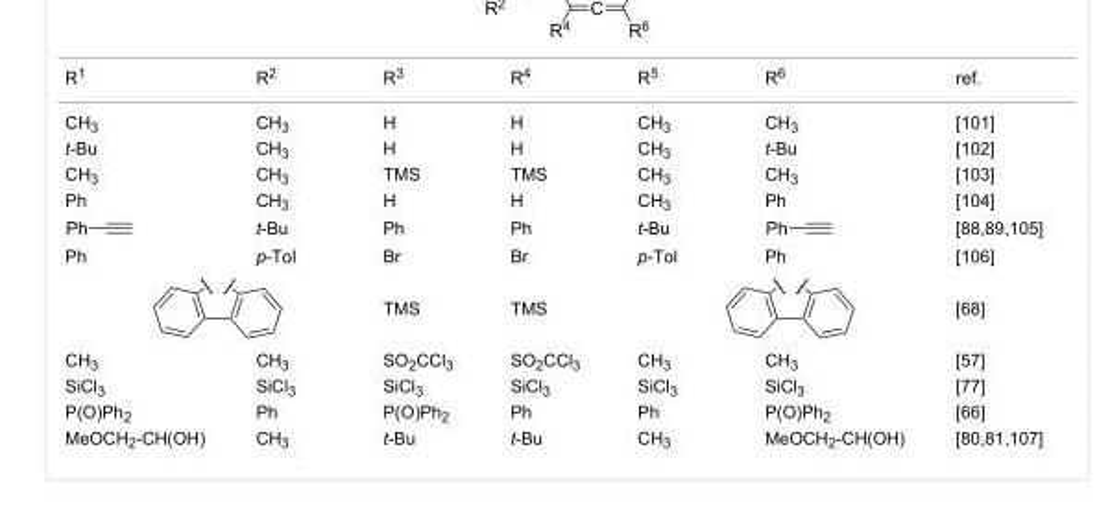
<table><tbody><tr><td>R<sup>1</sup></td><td>R<sup>2</sup></td><td>R<sup>3</sup></td><td>R<sup>4</sup></td><td>R<sup>5</sup></td><td>R<sup>6</sup></td><td>ref.</td></tr><tr><td>CH<sub>3</sub></td><td>CH<sub>3</sub></td><td>H</td><td>H</td><td>CH<sub>3</sub></td><td>CH<sub>3</sub></td><td>[101]</td></tr><tr><td>t-Bu</td><td>CH<sub>3</sub></td><td>H</td><td>H</td><td>CH<sub>3</sub></td><td>t-Bu</td><td>[102]</td></tr><tr><td>CH<sub>3</sub></td><td>CH<sub>3</sub></td><td>TMS</td><td>TMS</td><td>CH<sub>3</sub></td><td>CH<sub>3</sub></td><td>[103]</td></tr><tr><td rowspan="2">Ph</td><td>CH<sub>3</sub></td><td>H</td><td>H</td><td>CH<sub>3</sub></td><td>Ph</td><td>[104]</td></tr><tr><td>t-Bu</td><td>Ph</td><td>Ph</td><td>t-Bu</td><td></td><td>[88,89,105]</td></tr><tr><td>Ph</td><td>p-Tol</td><td>Br</td><td>Br</td><td>p-Tol</td><td>Ph</td><td>[106]</td></tr><tr><td colspan="2"></td><td>TMS</td><td>TMS</td><td colspan="2"></td><td>[68]</td></tr><tr><td>CH<sub>3</sub></td><td>CH<sub>3</sub></td><td>SO<sub>2</sub>CCl<sub>3</sub></td><td>SO<sub>2</sub>CCl<sub>3</sub></td><td>CH<sub>3</sub></td><td>CH<sub>3</sub></td><td>[57]</td></tr><tr><td>SiCl<sub>3</sub></td><td>SiCl<sub>3</sub></td><td>SiCl<sub>3</sub></td><td>SiCl<sub>3</sub></td><td>SiCl<sub>3</sub></td><td>SiCl<sub>3</sub></td><td>[77]</td></tr><tr><td>P(O)Ph<sub>2</sub></td><td>Ph</td><td>P(O)Ph<sub>2</sub></td><td>Ph</td><td>Ph</td><td>P(O)Ph<sub>2</sub></td><td>[66]</td></tr><tr><td>MeOCH<sub>2</sub>-CH(OH)</td><td>CH<sub>3</sub></td><td>t-Bu</td><td>t-Bu</td><td>CH<sub>3</sub></td><td>MeOCH<sub>2</sub>-CH(OH)</td><td>[80,81,107]</td></tr></tbody></table>